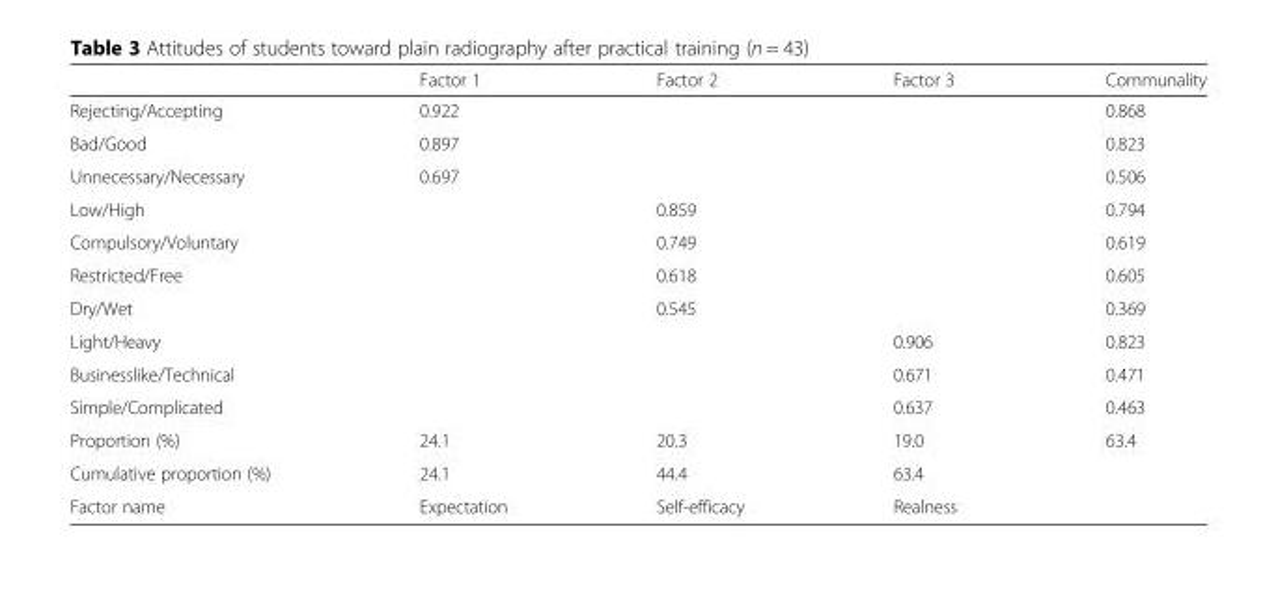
<table><thead><tr><td></td><td>Factor 1</td><td>Factor 2</td><td>Factor 3</td><td>Communality</td></tr></thead><tbody><tr><td>Rejecting/Accepting</td><td>0.922</td><td></td><td></td><td>0.868</td></tr><tr><td>Bad/Good</td><td>0.897</td><td></td><td></td><td>0.823</td></tr><tr><td>Unnecessary/Necessary</td><td>0.697</td><td></td><td></td><td>0.506</td></tr><tr><td>Low/High</td><td></td><td>0.859</td><td></td><td>0.794</td></tr><tr><td>Compulsory/Voluntary</td><td></td><td>0.749</td><td></td><td>0.619</td></tr><tr><td>Restricted/Free</td><td></td><td>0.618</td><td></td><td>0.605</td></tr><tr><td>Dry/Wet</td><td></td><td>0.545</td><td></td><td>0.369</td></tr><tr><td>Light/Heavy</td><td></td><td></td><td>0.906</td><td>0.823</td></tr><tr><td>Businesslike/Technical</td><td></td><td></td><td>0.671</td><td>0.471</td></tr><tr><td>Simple/Complicated</td><td></td><td></td><td>0.637</td><td>0.463</td></tr><tr><td>Proportion (%)</td><td>24.1</td><td>20.3</td><td>19.0</td><td>63.4</td></tr><tr><td>Cumulative proportion (%)</td><td>24.1</td><td>44.4</td><td>63.4</td><td></td></tr><tr><td>Factor name</td><td>Expectation</td><td>Self-efficacy</td><td>Realness</td><td></td></tr></tbody></table>